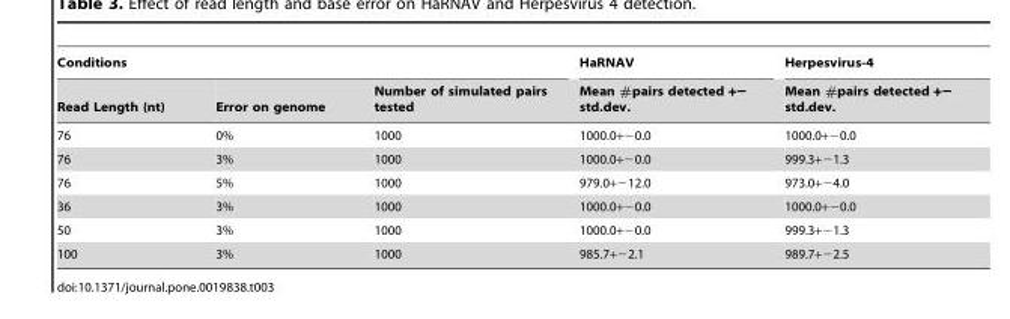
<table><thead><tr><td colspan="3">Conditions</td><td rowspan="2">HaRNAV Mean #pairs detected +− std.dev.</td><td rowspan="2">Herpesvirus-4 Mean #pairs detected +− std.dev.</td></tr><tr><td>Read Length (nt)</td><td>Error on genome</td><td>Number of simulated pairs tested</td></tr></thead><tbody><tr><td>76</td><td>0%</td><td>1000</td><td>1000.0+−0.0</td><td>1000.0+−0.0</td></tr><tr><td>76</td><td>3%</td><td>1000</td><td>1000.0+−0.0</td><td>999.3+−1.3</td></tr><tr><td>76</td><td>5%</td><td>1000</td><td>979.0+−12.0</td><td>973.0+−4.0</td></tr><tr><td>36</td><td>3%</td><td>1000</td><td>1000.0+−0.0</td><td>1000.0+−0.0</td></tr><tr><td>50</td><td>3%</td><td>1000</td><td>1000.0+−0.0</td><td>999.3+−1.3</td></tr><tr><td>100</td><td>3%</td><td>1000</td><td>985.7+−2.1</td><td>989.7+−2.5</td></tr></tbody></table>